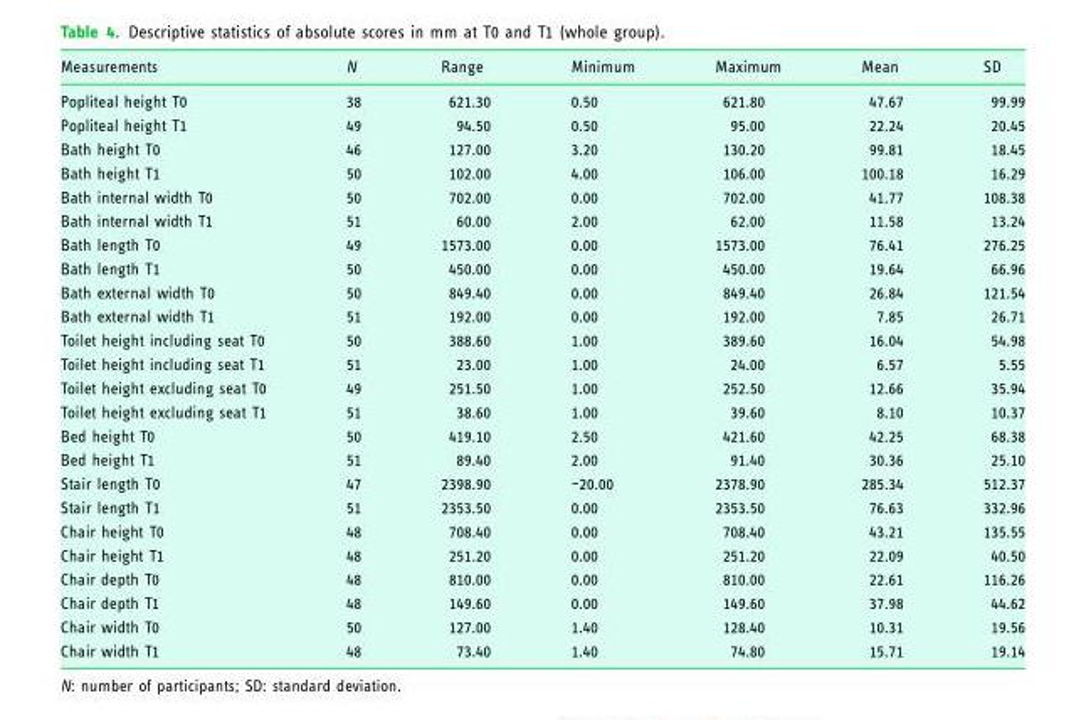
<table><thead><tr><td>Measurements</td><td>N</td><td>Range</td><td>Minimum</td><td>Maximum</td><td>Mean</td><td>SD</td></tr></thead><tbody><tr><td>Popliteal height T0</td><td>38</td><td>621.30</td><td>0.50</td><td>621.80</td><td>47.67</td><td>99.99</td></tr><tr><td>Popliteal height T1</td><td>49</td><td>94.50</td><td>0.50</td><td>95.00</td><td>22.24</td><td>20.45</td></tr><tr><td>Bath height T0</td><td>46</td><td>127.00</td><td>3.20</td><td>130.20</td><td>99.81</td><td>18.45</td></tr><tr><td>Bath height T1</td><td>50</td><td>102.00</td><td>4.00</td><td>106.00</td><td>100.18</td><td>16.29</td></tr><tr><td>Bath internal width T0</td><td>50</td><td>702.00</td><td>0.00</td><td>702.00</td><td>41.77</td><td>108.38</td></tr><tr><td>Bath internal width T1</td><td>51</td><td>60.00</td><td>2.00</td><td>62.00</td><td>11.58</td><td>13.24</td></tr><tr><td>Bath length T0</td><td>49</td><td>1573.00</td><td>0.00</td><td>1573.00</td><td>76.41</td><td>276.25</td></tr><tr><td>Bath length T1</td><td>50</td><td>450.00</td><td>0.00</td><td>450.00</td><td>19.64</td><td>66.96</td></tr><tr><td>Bath external width T0</td><td>50</td><td>849.40</td><td>0.00</td><td>849.40</td><td>26.84</td><td>121.54</td></tr><tr><td>Bath external width T1</td><td>51</td><td>192.00</td><td>0.00</td><td>192.00</td><td>7.85</td><td>26.71</td></tr><tr><td>Toilet height including seat T0</td><td>50</td><td>388.60</td><td>1.00</td><td>389.60</td><td>16.04</td><td>54.98</td></tr><tr><td>Toilet height including seat T1</td><td>51</td><td>23.00</td><td>1.00</td><td>24.00</td><td>6.57</td><td>5.55</td></tr><tr><td>Toilet height excluding seat T0</td><td>49</td><td>251.50</td><td>1.00</td><td>252.50</td><td>12.66</td><td>35.94</td></tr><tr><td>Toilet height excluding seat T1</td><td>51</td><td>38.60</td><td>1.00</td><td>39.60</td><td>8.10</td><td>10.37</td></tr><tr><td>Bed height T0</td><td>50</td><td>419.10</td><td>2.50</td><td>421.60</td><td>42.25</td><td>68.38</td></tr><tr><td>Bed height T1</td><td>51</td><td>89.40</td><td>2.00</td><td>91.40</td><td>30.36</td><td>25.10</td></tr><tr><td>Stair length T0</td><td>47</td><td>2398.90</td><td>–20.00</td><td>2378.90</td><td>285.34</td><td>512.37</td></tr><tr><td>Stair length T1</td><td>51</td><td>2353.50</td><td>0.00</td><td>2353.50</td><td>76.63</td><td>332.96</td></tr><tr><td>Chair height T0</td><td>48</td><td>708.40</td><td>0.00</td><td>708.40</td><td>43.21</td><td>135.55</td></tr><tr><td>Chair height T1</td><td>48</td><td>251.20</td><td>0.00</td><td>251.20</td><td>22.09</td><td>40.50</td></tr><tr><td>Chair depth T0</td><td>48</td><td>810.00</td><td>0.00</td><td>810.00</td><td>22.61</td><td>116.26</td></tr><tr><td>Chair depth T1</td><td>48</td><td>149.60</td><td>0.00</td><td>149.60</td><td>37.98</td><td>44.62</td></tr><tr><td>Chair width T0</td><td>50</td><td>127.00</td><td>1.40</td><td>128.40</td><td>10.31</td><td>19.56</td></tr><tr><td>Chair width T1</td><td>48</td><td>73.40</td><td>1.40</td><td>74.80</td><td>15.71</td><td>19.14</td></tr></tbody></table>